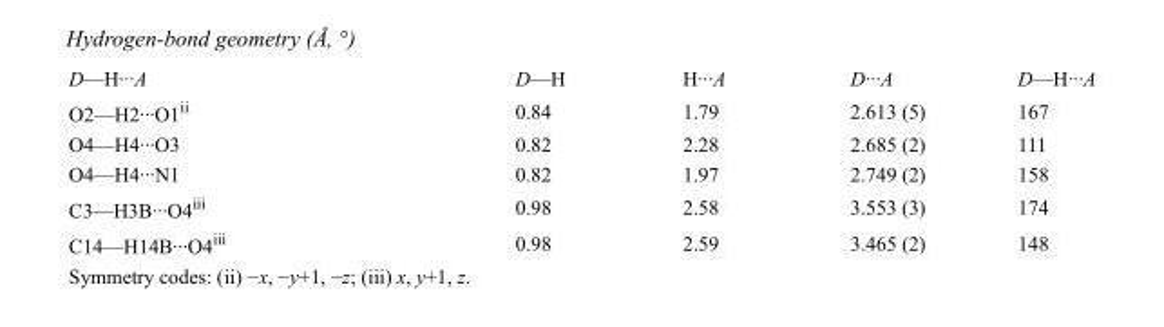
<table><tbody><tr><td>D—H···A</td><td>D—H</td><td>H···A</td><td>D···A</td><td>D—H···A</td></tr><tr><td>O2—H2···O1<sup>ii</sup></td><td>0.84</td><td>1.79</td><td>2.613 (5)</td><td>167</td></tr><tr><td>O4—H4···O3</td><td>0.82</td><td>2.28</td><td>2.685 (2)</td><td>111</td></tr><tr><td>O4—H4···N1</td><td>0.82</td><td>1.97</td><td>2.749 (2)</td><td>158</td></tr><tr><td>C3—H3B···O4<sup>iii</sup></td><td>0.98</td><td>2.58</td><td>3.553 (3)</td><td>174</td></tr><tr><td>C14—H14B···O4<sup>iii</sup></td><td>0.98</td><td>2.59</td><td>3.465 (2)</td><td>148</td></tr></tbody></table>